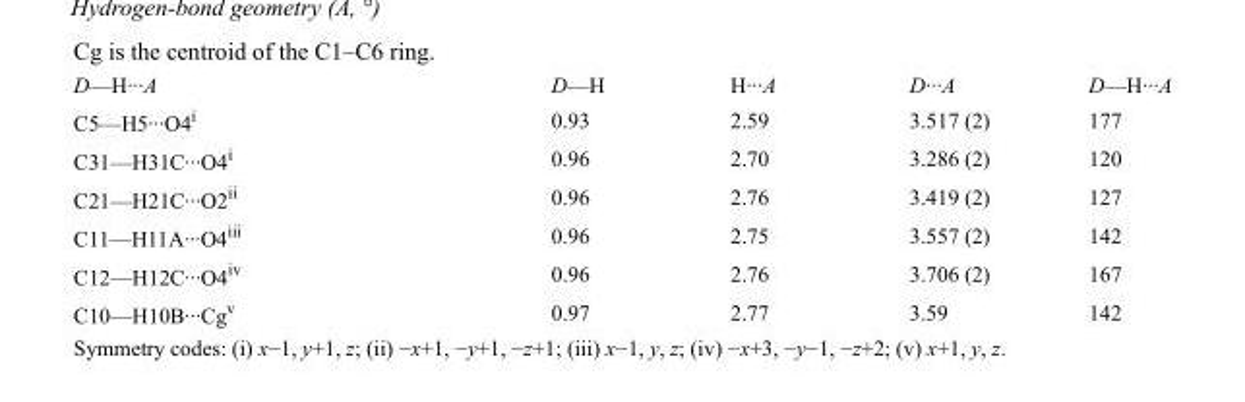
<table><tbody><tr><td>D—H···A</td><td>D—H</td><td>H···A</td><td>D···A</td><td>D—H···A</td></tr><tr><td>C5—H5···O4<sup>i</sup></td><td>0.93</td><td>2.59</td><td>3.517 (2)</td><td>177</td></tr><tr><td>C31—H31C···O4<sup>i</sup></td><td>0.96</td><td>2.70</td><td>3.286 (2)</td><td>120</td></tr><tr><td>C21—H21C···O2<sup>ii</sup></td><td>0.96</td><td>2.76</td><td>3.419 (2)</td><td>127</td></tr><tr><td>C11—H11A···O4<sup>iii</sup></td><td>0.96</td><td>2.75</td><td>3.557 (2)</td><td>142</td></tr><tr><td>C12—H12C···O4<sup>iv</sup></td><td>0.96</td><td>2.76</td><td>3.706 (2)</td><td>167</td></tr><tr><td>C10—H10B···Cg<sup>v</sup></td><td>0.97</td><td>2.77</td><td>3.59</td><td>142</td></tr></tbody></table>